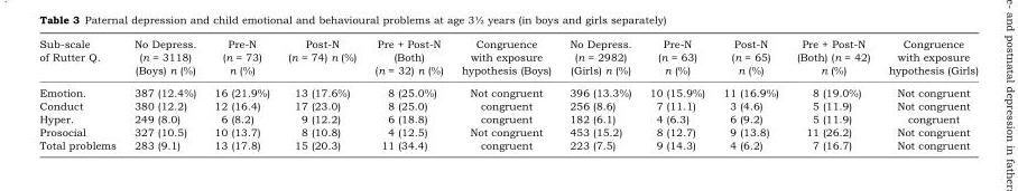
<table><thead><tr><td>Sub-scale of Rutter Q.</td><td>No Depress. (n = 3118) (Boys) n (%)</td><td>Pre-N (n = 73) n (%)</td><td>Post-N (n = 74) n (%)</td><td>Pre + Post-N (Both) (n = 32) n (%)</td><td>Congruence with exposure hypothesis (Boys)</td><td>No Depress. (n = 2982) (Girls) n (%)</td><td>Pre-N (n = 63) n (%)</td><td>Post-N (n = 65) n (%)</td><td>Pre + Post-N (Both) (n = 42) n (%)</td><td>Congruence with exposure hypothesis (Girls)</td></tr></thead><tbody><tr><td>Emotion.</td><td>387 (12.4%)</td><td>16 (21.9%)</td><td>13 (17.6%)</td><td>8 (25.0%)</td><td>Not congruent</td><td>396 (13.3%)</td><td>10 (15.9%)</td><td>11 (16.9%)</td><td>8 (19.0%)</td><td>Not congruent</td></tr><tr><td>Conduct</td><td>380 (12.2)</td><td>12 (16.4)</td><td>17 (23.0)</td><td>8 (25.0)</td><td>congruent</td><td>256 (8.6)</td><td>7 (11.1)</td><td>3 (4.6)</td><td>5 (11.9)</td><td>Not congruent</td></tr><tr><td>Hyper.</td><td>249 (8.0)</td><td>6 (8.2)</td><td>9 (12.2)</td><td>6 (18.8)</td><td>congruent</td><td>182 (6.1)</td><td>4 (6.3)</td><td>6 (9.2)</td><td>5 (11.9)</td><td>congruent</td></tr><tr><td>Prosocial</td><td>327 (10.5)</td><td>10 (13.7)</td><td>8 (10.8)</td><td>4 (12.5)</td><td>Not congruent</td><td>453 (15.2)</td><td>8 (12.7)</td><td>9 (13.8)</td><td>11 (26.2)</td><td>Not congruent</td></tr><tr><td>Total problems</td><td>283 (9.1)</td><td>13 (17.8)</td><td>15 (20.3)</td><td>11 (34.4)</td><td>congruent</td><td>223 (7.5)</td><td>9 (14.3)</td><td>4 (6.2)</td><td>7 (16.7)</td><td>Not congruent</td></tr></tbody></table>